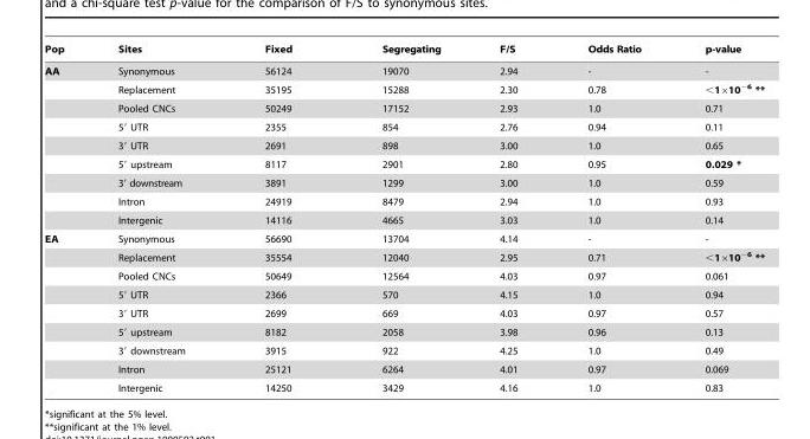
<table><thead><tr><td>Pop</td><td>Sites</td><td>Fixed</td><td>Segregating</td><td>F/S</td><td>Odds Ratio</td><td>p-value</td></tr></thead><tbody><tr><td rowspan="9">AA</td><td>Synonymous</td><td>56124</td><td>19070</td><td>2.94</td><td>-</td><td>-</td></tr><tr><td>Replacement</td><td>35195</td><td>15288</td><td>2.30</td><td>0.78</td><td>&lt;1×10<sup>−6</sup> **</td></tr><tr><td>Pooled CNCs</td><td>50249</td><td>17152</td><td>2.93</td><td>1.0</td><td>0.71</td></tr><tr><td>5′ UTR</td><td>2355</td><td>854</td><td>2.76</td><td>0.94</td><td>0.11</td></tr><tr><td>3′ UTR</td><td>2691</td><td>898</td><td>3.00</td><td>1.0</td><td>0.65</td></tr><tr><td>5′ upstream</td><td>8117</td><td>2901</td><td>2.80</td><td>0.95</td><td>0.029 *</td></tr><tr><td>3′ downstream</td><td>3891</td><td>1299</td><td>3.00</td><td>1.0</td><td>0.59</td></tr><tr><td>Intron</td><td>24919</td><td>8479</td><td>2.94</td><td>1.0</td><td>0.93</td></tr><tr><td>Intergenic</td><td>14116</td><td>4665</td><td>3.03</td><td>1.0</td><td>0.14</td></tr><tr><td rowspan="9">EA</td><td>Synonymous</td><td>56690</td><td>13704</td><td>4.14</td><td>-</td><td>-</td></tr><tr><td>Replacement</td><td>35554</td><td>12040</td><td>2.95</td><td>0.71</td><td>&lt;1×10<sup>−6</sup> **</td></tr><tr><td>Pooled CNCs</td><td>50649</td><td>12564</td><td>4.03</td><td>0.97</td><td>0.061</td></tr><tr><td>5′ UTR</td><td>2366</td><td>570</td><td>4.15</td><td>1.0</td><td>0.94</td></tr><tr><td>3′ UTR</td><td>2699</td><td>669</td><td>4.03</td><td>0.97</td><td>0.57</td></tr><tr><td>5′ upstream</td><td>8182</td><td>2058</td><td>3.98</td><td>0.96</td><td>0.13</td></tr><tr><td>3′ downstream</td><td>3915</td><td>922</td><td>4.25</td><td>1.0</td><td>0.49</td></tr><tr><td>Intron</td><td>25121</td><td>6264</td><td>4.01</td><td>0.97</td><td>0.069</td></tr><tr><td>Intergenic</td><td>14250</td><td>3429</td><td>4.16</td><td>1.0</td><td>0.83</td></tr></tbody></table>